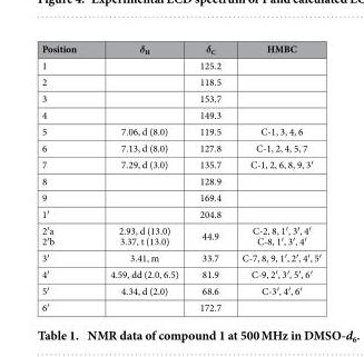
<table><thead><tr><td>Position</td><td>δ<sub>H</sub></td><td>δ<sub>C</sub></td><td>HMBC</td></tr></thead><tbody><tr><td>1</td><td></td><td>125.2</td><td></td></tr><tr><td>2</td><td></td><td>118.5</td><td></td></tr><tr><td>3</td><td></td><td>153.7</td><td></td></tr><tr><td>4</td><td></td><td>149.3</td><td></td></tr><tr><td>5</td><td>7.06, d (8.0)</td><td>119.5</td><td>C-1, 3, 4, 6</td></tr><tr><td>6</td><td>7.13, d (8.0)</td><td>127.8</td><td>C-1, 2, 4, 5, 7</td></tr><tr><td>7</td><td>7.29, d (3.0)</td><td>135.7</td><td>C-1, 2, 6, 8, 9, 3′</td></tr><tr><td>8</td><td></td><td>128.9</td><td></td></tr><tr><td>9</td><td></td><td>169.4</td><td></td></tr><tr><td>1′</td><td></td><td>204.8</td><td></td></tr><tr><td>2′ a 2′ b</td><td>2.93, d (13.0) 3.37, t (13.0)</td><td>44.9</td><td>C-2, 8, 1′ , 3′ , 4′ C-8, 1′ , 3′ , 4′</td></tr><tr><td>3′</td><td>3.41, m</td><td>33.7</td><td>C-7, 8, 9, 1′ , 2′ , 4′ , 5′</td></tr><tr><td>4′</td><td>4.59, dd (2.0, 6.5)</td><td>81.9</td><td>C-9, 2′ , 3′ , 5′ , 6′</td></tr><tr><td>5′</td><td>4.34, d (2.0)</td><td>68.6</td><td>C-3′ , 4′ , 6′</td></tr><tr><td>6′</td><td></td><td>172.7</td><td></td></tr></tbody></table>